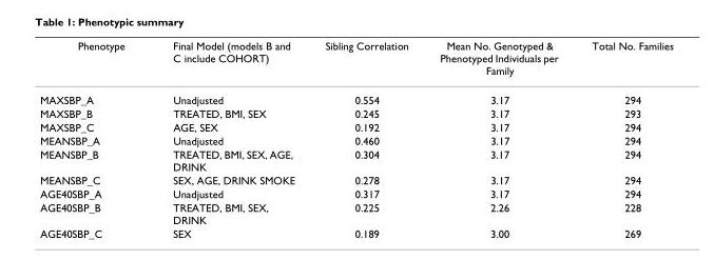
<table><thead><tr><td>Phenotype</td><td>Final Model (models B and C include COHORT)</td><td>Sibling Correlation</td><td>Mean No. Genotyped &amp; Phenotyped Individuals per Family</td><td>Total No. Families</td></tr></thead><tbody><tr><td>MAXSBP_A</td><td>Unadjusted</td><td>0.554</td><td>3.17</td><td>294</td></tr><tr><td>MAXSBP_B</td><td>TREATED, BMI, SEX</td><td>0.245</td><td>3.17</td><td>293</td></tr><tr><td>MAXSBP_C</td><td>AGE, SEX</td><td>0.192</td><td>3.17</td><td>294</td></tr><tr><td>MEANSBP_A</td><td>Unadjusted</td><td>0.460</td><td>3.17</td><td>294</td></tr><tr><td>MEANSBP_B</td><td>TREATED, BMI, SEX, AGE, DRINK</td><td>0.304</td><td>3.17</td><td>294</td></tr><tr><td>MEANSBP_C</td><td>SEX, AGE, DRINK SMOKE</td><td>0.278</td><td>3.17</td><td>294</td></tr><tr><td>AGE40SBP_A</td><td>Unadjusted</td><td>0.317</td><td>3.17</td><td>294</td></tr><tr><td>AGE40SBP_B</td><td>TREATED, BMI, SEX, DRINK</td><td>0.225</td><td>2.26</td><td>228</td></tr><tr><td>AGE40SBP_C</td><td>SEX</td><td>0.189</td><td>3.00</td><td>269</td></tr></tbody></table>